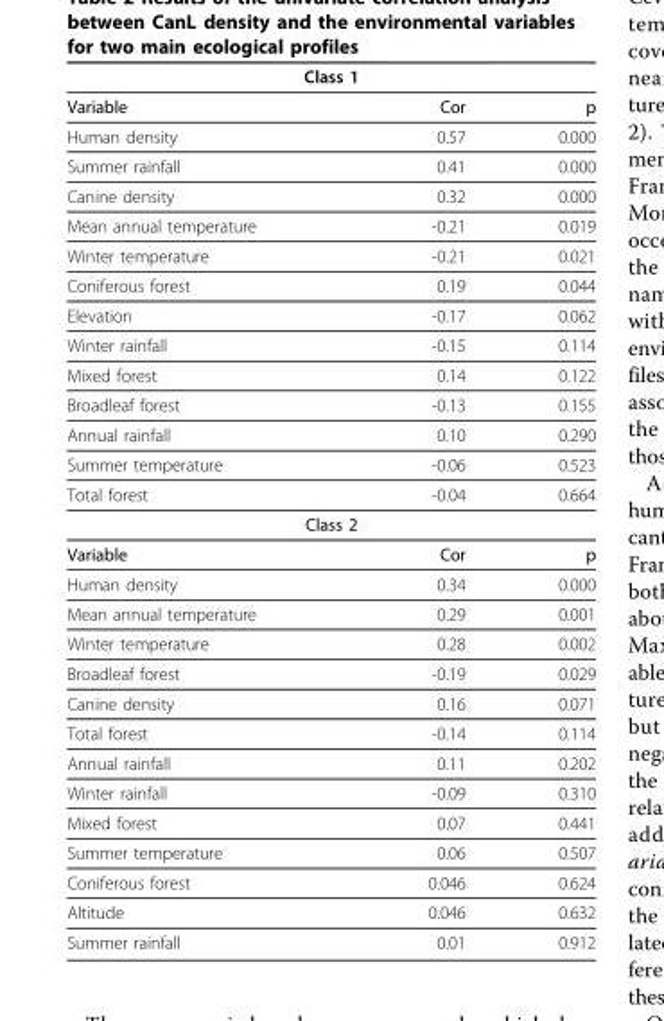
<table><thead><tr><td colspan="3">Class 1</td></tr><tr><td>Variable</td><td>Cor</td><td>p</td></tr></thead><tbody><tr><td>Human density</td><td>0.57</td><td>0.000</td></tr><tr><td>Summer rainfall</td><td>0.41</td><td>0.000</td></tr><tr><td>Canine density</td><td>0.32</td><td>0.000</td></tr><tr><td>Mean annual temperature</td><td>-0.21</td><td>0.019</td></tr><tr><td>Winter temperature</td><td>-0.21</td><td>0.021</td></tr><tr><td>Coniferous forest</td><td>0.19</td><td>0.044</td></tr><tr><td>Elevation</td><td>-0.17</td><td>0.062</td></tr><tr><td>Winter rainfall</td><td>-0.15</td><td>0.114</td></tr><tr><td>Mixed forest</td><td>0.14</td><td>0.122</td></tr><tr><td>Broadleaf forest</td><td>-0.13</td><td>0.155</td></tr><tr><td>Annual rainfall</td><td>0.10</td><td>0.290</td></tr><tr><td>Summer temperature</td><td>-0.06</td><td>0.523</td></tr><tr><td>Total forest</td><td>-0.04</td><td>0.664</td></tr><tr><td colspan="3">Class 2</td></tr><tr><td>Variable</td><td>Cor</td><td>p</td></tr><tr><td>Human density</td><td>0.34</td><td>0.000</td></tr><tr><td>Mean annual temperature</td><td>0.29</td><td>0.001</td></tr><tr><td>Winter temperature</td><td>0.28</td><td>0.002</td></tr><tr><td>Broadleaf forest</td><td>-0.19</td><td>0.029</td></tr><tr><td>Canine density</td><td>0.16</td><td>0.071</td></tr><tr><td>Total forest</td><td>-0.14</td><td>0.114</td></tr><tr><td>Annual rainfall</td><td>0.11</td><td>0.202</td></tr><tr><td>Winter rainfall</td><td>-0.09</td><td>0.310</td></tr><tr><td>Mixed forest</td><td>0.07</td><td>0.441</td></tr><tr><td>Summer temperature</td><td>0.06</td><td>0.507</td></tr><tr><td>Coniferous forest</td><td>0.046</td><td>0.624</td></tr><tr><td>Altitude</td><td>0.046</td><td>0.632</td></tr><tr><td>Summer rainfall</td><td>0.01</td><td>0.912</td></tr></tbody></table>